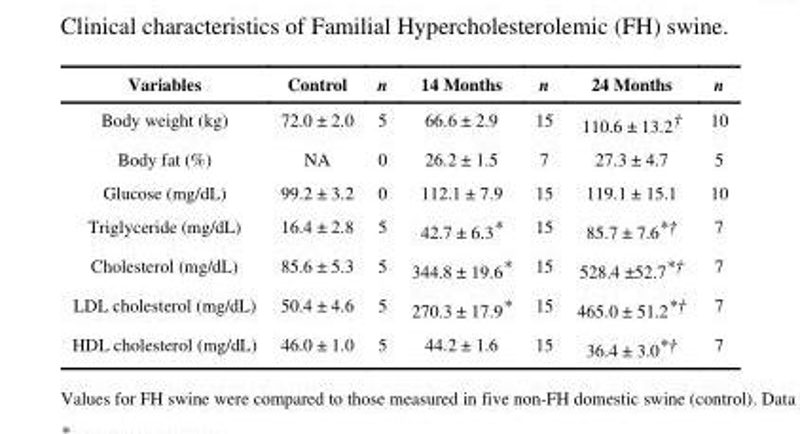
<table><thead><tr><td>Variables</td><td>Control</td><td>n</td><td>14 Months</td><td>n</td><td>24 Months</td><td>n</td></tr></thead><tbody><tr><td>Body weight (kg)</td><td>72.0 ± 2.0</td><td>5</td><td>66.6 ± 2.9</td><td>15</td><td>110.6 ± 13.2†</td><td>10</td></tr><tr><td>Body fat (%)</td><td>NA</td><td>0</td><td>26.2 ± 1.5</td><td>7</td><td>27.3 ± 4.7</td><td>5</td></tr><tr><td>Glucose (mg/dL)</td><td>99.2 ± 3.2</td><td>0</td><td>112.1 ± 7.9</td><td>15</td><td>119.1 ± 15.1</td><td>10</td></tr><tr><td>Triglyceride (mg/dL)</td><td>16.4 ± 2.8</td><td>5</td><td>42.7 ± 6.3*</td><td>15</td><td>85.7 ± 7.6*†</td><td>7</td></tr><tr><td>Cholesterol (mg/dL)</td><td>85.6 ± 5.3</td><td>5</td><td>344.8 ± 19.6*</td><td>15</td><td>528.4 ±52.7*†</td><td>7</td></tr><tr><td>LDL cholesterol (mg/dL)</td><td>50.4 ± 4.6</td><td>5</td><td>270.3 ± 17.9*</td><td>15</td><td>465.0 ± 51.2*†</td><td>7</td></tr><tr><td>HDL cholesterol (mg/dL)</td><td>46.0 ± 1.0</td><td>5</td><td>44.2 ± 1.6</td><td>15</td><td>36.4 ± 3.0*†</td><td>7</td></tr></tbody></table>